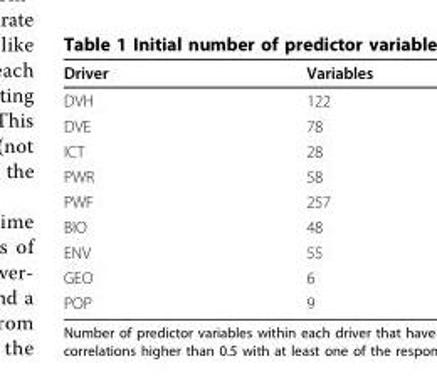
<table><thead><tr><td>Driver</td><td>Variables</td></tr></thead><tbody><tr><td>DVH</td><td>122</td></tr><tr><td>DVE</td><td>78</td></tr><tr><td>ICT</td><td>28</td></tr><tr><td>PWR</td><td>58</td></tr><tr><td>PWF</td><td>257</td></tr><tr><td>BIO</td><td>48</td></tr><tr><td>ENV</td><td>55</td></tr><tr><td>GEO</td><td>6</td></tr><tr><td>POP</td><td>9</td></tr></tbody></table>